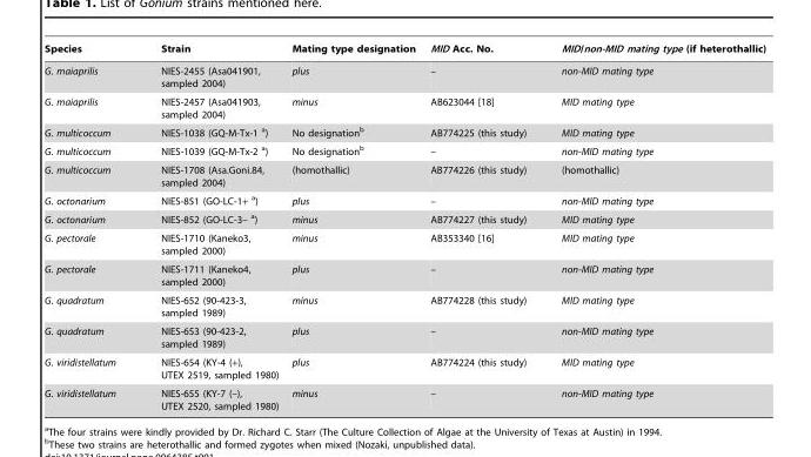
<table><thead><tr><td>Species</td><td>Strain</td><td>Mating type designation</td><td>MID Acc. No.</td><td>MID/non-MID mating type (if heterothallic)</td></tr></thead><tbody><tr><td>G. maiaprilis</td><td>NIES-2455 (Asa041901, sampled 2004)</td><td>plus</td><td>–</td><td>non-MID mating type</td></tr><tr><td>G. maiaprilis</td><td>NIES-2457 (Asa041903, sampled 2004)</td><td>minus</td><td>AB623044 [18]</td><td>MID mating type</td></tr><tr><td>G. multicoccum</td><td>NIES-1038 (GQ-M-Tx-1 a)</td><td>No designation<sup>b</sup></td><td>AB774225 (this study)</td><td>MID mating type</td></tr><tr><td>G. multicoccum</td><td>NIES-1039 (GQ-M-Tx-2 a)</td><td>No designation<sup>b</sup></td><td>–</td><td>non-MID mating type</td></tr><tr><td>G. multicoccum</td><td>NIES-1708 (Asa.Goni.84, sampled 2004)</td><td>(homothallic)</td><td>AB774226 (this study)</td><td>(homothallic)</td></tr><tr><td>G. octonarium</td><td>NIES-851 (GO-LC-1+ a)</td><td>plus</td><td>–</td><td>non-MID mating type</td></tr><tr><td>G. octonarium</td><td>NIES-852 (GO-LC-3– a)</td><td>minus</td><td>AB774227 (this study)</td><td>MID mating type</td></tr><tr><td>G. pectorale</td><td>NIES-1710 (Kaneko3, sampled 2000)</td><td>minus</td><td>AB353340 [16]</td><td>MID mating type</td></tr><tr><td>G. pectorale</td><td>NIES-1711 (Kaneko4, sampled 2000)</td><td>plus</td><td>–</td><td>non-MID mating type</td></tr><tr><td>G. quadratum</td><td>NIES-652 (90-423-3, sampled 1989)</td><td>minus</td><td>AB774228 (this study)</td><td>MID mating type</td></tr><tr><td>G. quadratum</td><td>NIES-653 (90-423-2, sampled 1989)</td><td>plus</td><td>–</td><td>non-MID mating type</td></tr><tr><td>G. viridistellatum</td><td>NIES-654 (KY-4 (+), UTEX 2519, sampled 1980)</td><td>plus</td><td>AB774224 (this study)</td><td>MID mating type</td></tr><tr><td>G. viridistellatum</td><td>NIES-655 (KY-7 (–), UTEX 2520, sampled 1980)</td><td>minus</td><td>–</td><td>non-MID mating type</td></tr></tbody></table>